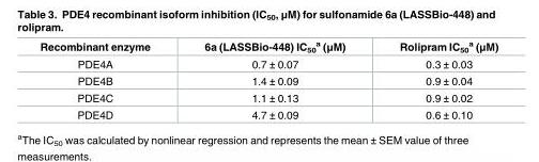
<table><thead><tr><td>Recombinant enzyme</td><td>6a (LASSBio-448) IC<sub>50</sub> <sup>a</sup> (μM)</td><td>Rolipram IC<sub>50</sub> <sup>a</sup> (μM)</td></tr></thead><tbody><tr><td>PDE4A</td><td>0.7 ± 0.07</td><td>0.3 ± 0.03</td></tr><tr><td>PDE4B</td><td>1.4 ± 0.09</td><td>0.9 ± 0.04</td></tr><tr><td>PDE4C</td><td>1.1 ± 0.13</td><td>0.9 ± 0.02</td></tr><tr><td>PDE4D</td><td>4.7 ± 0.09</td><td>0.6 ± 0.10</td></tr></tbody></table>